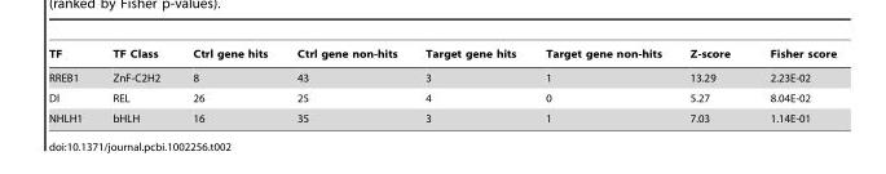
<table><thead><tr><td>TF</td><td>TF Class</td><td>Ctrl gene hits</td><td>Ctrl gene non-hits</td><td>Target gene hits</td><td>Target gene non-hits</td><td>Z-score</td><td>Fisher score</td></tr></thead><tbody><tr><td>RREB1</td><td>ZnF-C2H2</td><td>8</td><td>43</td><td>3</td><td>1</td><td>13.29</td><td>2.23E-02</td></tr><tr><td>Dl</td><td>REL</td><td>26</td><td>25</td><td>4</td><td>0</td><td>5.27</td><td>8.04E-02</td></tr><tr><td>NHLH1</td><td>bHLH</td><td>16</td><td>35</td><td>3</td><td>1</td><td>7.03</td><td>1.14E-01</td></tr></tbody></table>